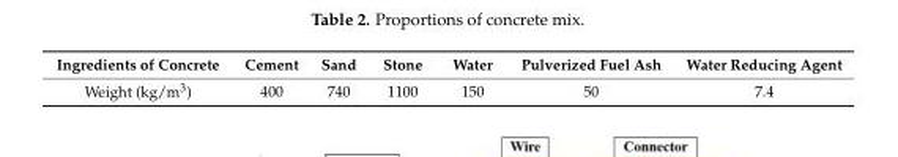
<table><thead><tr><td>Ingredients of Concrete</td><td>Cement</td><td>Sand</td><td>Stone</td><td>Water</td><td>Pulverized Fuel Ash</td><td>Water Reducing Agent</td></tr></thead><tbody><tr><td>Weight (kg/m<sup>3</sup>)</td><td>400</td><td>740</td><td>1100</td><td>150</td><td>50</td><td>7.4</td></tr></tbody></table>